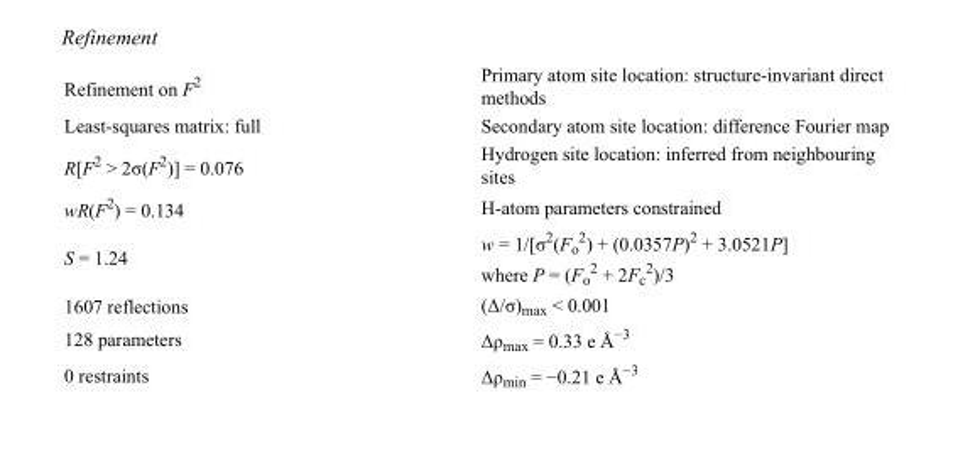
<table><tbody><tr><td>Refinement on F<sup>2</sup></td><td>Primary atom site location: structure-invariant direct methods</td></tr><tr><td>Least-squares matrix: full</td><td>Secondary atom site location: difference Fourier map</td></tr><tr><td>R[F<sup>2</sup> &gt; 2σ(F<sup>2</sup>)] = 0.076</td><td>Hydrogen site location: inferred from neighbouring sites</td></tr><tr><td>wR(F<sup>2</sup>) = 0.134</td><td>H-atom parameters constrained</td></tr><tr><td>S = 1.24</td><td>w = 1/[σ<sup>2</sup>(F<sub>o</sub> <sup>2</sup>) + (0.0357P)<sup>2</sup> + 3.0521P] where P = (F<sub>o</sub> <sup>2</sup> + 2F<sub>c</sub> <sup>2</sup>)/3</td></tr><tr><td>1607 reflections</td><td>(Δ/σ)<sub>max</sub> &lt; 0.001</td></tr><tr><td>128 parameters</td><td>Δρ<sub>max</sub> = 0.33 e Å<sup>−3</sup></td></tr><tr><td>0 restraints</td><td>Δρ<sub>min</sub> = −0.21 e Å<sup>−3</sup></td></tr></tbody></table>